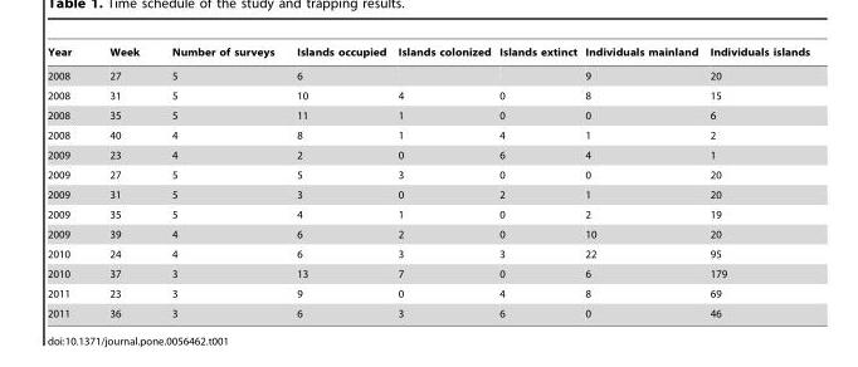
<table><thead><tr><td>Year</td><td>Week</td><td>Number of surveys</td><td>Islands occupied</td><td>Islands colonized</td><td>Islands extinct</td><td>Individuals mainland</td><td>Individuals islands</td></tr></thead><tbody><tr><td>2008</td><td>27</td><td>5</td><td>6</td><td></td><td></td><td>9</td><td>20</td></tr><tr><td>2008</td><td>31</td><td>5</td><td>10</td><td>4</td><td>0</td><td>8</td><td>15</td></tr><tr><td>2008</td><td>35</td><td>5</td><td>11</td><td>1</td><td>0</td><td>0</td><td>6</td></tr><tr><td>2008</td><td>40</td><td>4</td><td>8</td><td>1</td><td>4</td><td>1</td><td>2</td></tr><tr><td>2009</td><td>23</td><td>4</td><td>2</td><td>0</td><td>6</td><td>4</td><td>1</td></tr><tr><td>2009</td><td>27</td><td>5</td><td>5</td><td>3</td><td>0</td><td>0</td><td>20</td></tr><tr><td>2009</td><td>31</td><td>5</td><td>3</td><td>0</td><td>2</td><td>1</td><td>20</td></tr><tr><td>2009</td><td>35</td><td>5</td><td>4</td><td>1</td><td>0</td><td>2</td><td>19</td></tr><tr><td>2009</td><td>39</td><td>4</td><td>6</td><td>2</td><td>0</td><td>10</td><td>20</td></tr><tr><td>2010</td><td>24</td><td>4</td><td>6</td><td>3</td><td>3</td><td>22</td><td>95</td></tr><tr><td>2010</td><td>37</td><td>3</td><td>13</td><td>7</td><td>0</td><td>6</td><td>179</td></tr><tr><td>2011</td><td>23</td><td>3</td><td>9</td><td>0</td><td>4</td><td>8</td><td>69</td></tr><tr><td>2011</td><td>36</td><td>3</td><td>6</td><td>3</td><td>6</td><td>0</td><td>46</td></tr></tbody></table>